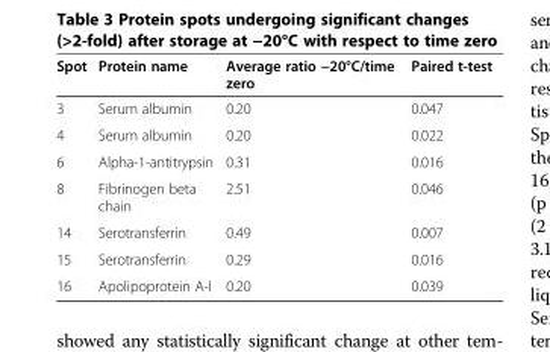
<table><thead><tr><td>Spot</td><td>Protein name</td><td>Average ratio −20°C/time zero</td><td>Paired t-test</td></tr></thead><tbody><tr><td>3</td><td>Serum albumin</td><td>0.20</td><td>0.047</td></tr><tr><td>4</td><td>Serum albumin</td><td>0.20</td><td>0.022</td></tr><tr><td>6</td><td>Alpha-1-antitrypsin</td><td>0.31</td><td>0.016</td></tr><tr><td>8</td><td>Fibrinogen beta chain</td><td>2.51</td><td>0.046</td></tr><tr><td>14</td><td>Serotransferrin</td><td>0.49</td><td>0.007</td></tr><tr><td>15</td><td>Serotransferrin</td><td>0.29</td><td>0.016</td></tr><tr><td>16</td><td>Apolipoprotein A-I</td><td>0.20</td><td>0.039</td></tr></tbody></table>